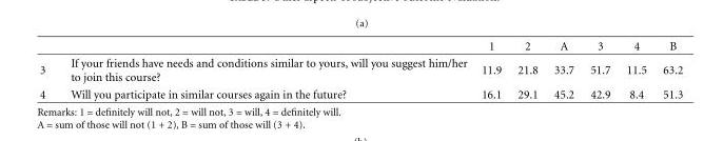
<table><thead><tr><td></td><td></td><td>1</td><td>2</td><td>A</td><td>3</td><td>4</td><td>B</td></tr></thead><tbody><tr><td>3</td><td>If your friends have needs and conditions similar to yours, will you suggest him/her to join this course?</td><td>11.9</td><td>21.8</td><td>33.7</td><td>51.7</td><td>11.5</td><td>63.2</td></tr><tr><td>4</td><td>Will you participate in similar courses again in the future?</td><td>16.1</td><td>29.1</td><td>45.2</td><td>42.9</td><td>8.4</td><td>51.3</td></tr></tbody></table>